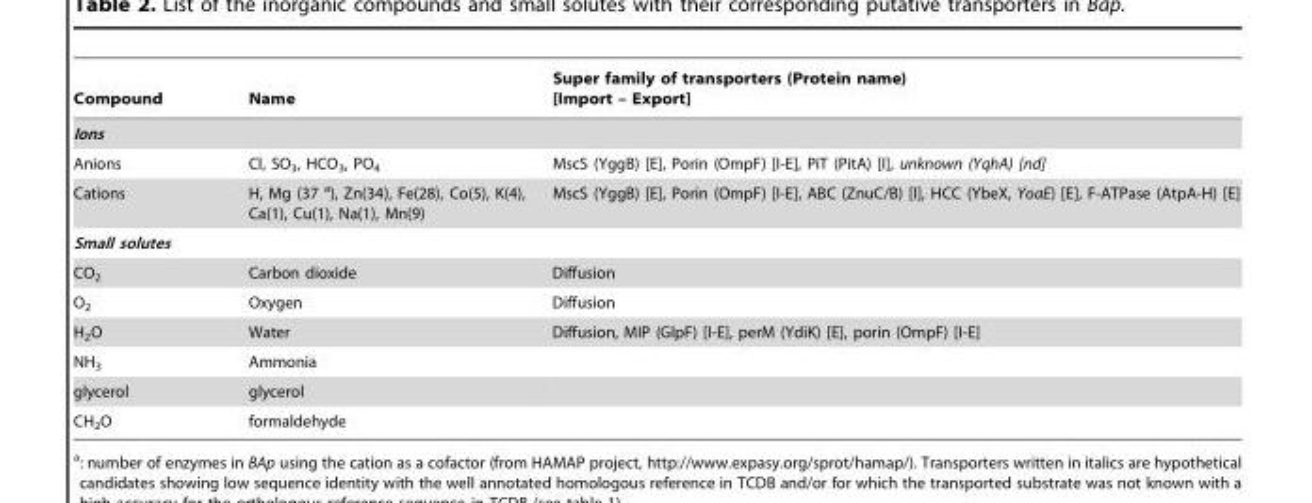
<table><thead><tr><td>Compound</td><td>Name</td><td>Super family of transporters (Protein name) [Import – Export]</td></tr></thead><tbody><tr><td colspan="3">Ions</td></tr><tr><td>Anions</td><td>Cl, SO<sub>3</sub>, HCO<sub>3</sub>, PO<sub>4</sub></td><td>MscS (YggB) [E], Porin (OmpF) [I-E], PiT (PitA) [I], unknown (YqhA) [nd]</td></tr><tr><td>Cations</td><td>H, Mg (37 a), Zn(34), Fe(28), Co(5), K(4), Ca(1), Cu(1), Na(1), Mn(9)</td><td>MscS (YggB) [E], Porin (OmpF) [I-E], ABC (ZnuC/B) [I], HCC (YbeX, YoaE) [E], F-ATPase (AtpA-H) [E]</td></tr><tr><td colspan="3">Small solutes</td></tr><tr><td>CO<sub>2</sub></td><td>Carbon dioxide</td><td>Diffusion</td></tr><tr><td>O<sub>2</sub></td><td>Oxygen</td><td>Diffusion</td></tr><tr><td>H<sub>2</sub>O</td><td>Water</td><td>Diffusion, MIP (GlpF) [I-E], perM (YdiK) [E], porin (OmpF) [I-E]</td></tr><tr><td>NH<sub>3</sub></td><td>Ammonia</td><td></td></tr><tr><td>glycerol</td><td>glycerol</td><td></td></tr><tr><td>CH<sub>2</sub>O</td><td>formaldehyde</td><td></td></tr></tbody></table>